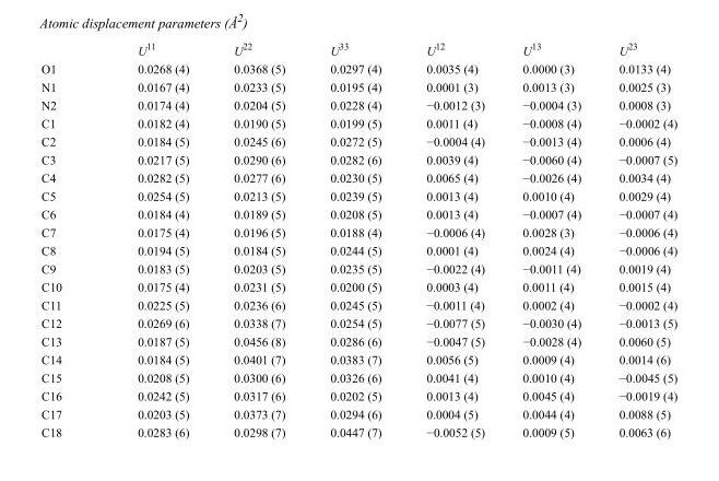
<table><thead><tr><td></td><td>U<sup>11</sup></td><td>U<sup>22</sup></td><td>U<sup>33</sup></td><td>U<sup>12</sup></td><td>U<sup>13</sup></td><td>U<sup>23</sup></td></tr></thead><tbody><tr><td>O1</td><td>0.0268 (4)</td><td>0.0368 (5)</td><td>0.0297 (4)</td><td>0.0035 (4)</td><td>0.0000 (3)</td><td>0.0133 (4)</td></tr><tr><td>N1</td><td>0.0167 (4)</td><td>0.0233 (5)</td><td>0.0195 (4)</td><td>0.0001 (3)</td><td>0.0013 (3)</td><td>0.0025 (3)</td></tr><tr><td>N2</td><td>0.0174 (4)</td><td>0.0204 (5)</td><td>0.0228 (4)</td><td>−0.0012 (3)</td><td>−0.0004 (3)</td><td>0.0008 (3)</td></tr><tr><td>C1</td><td>0.0182 (4)</td><td>0.0190 (5)</td><td>0.0199 (5)</td><td>0.0011 (4)</td><td>−0.0008 (4)</td><td>−0.0002 (4)</td></tr><tr><td>C2</td><td>0.0184 (5)</td><td>0.0245 (6)</td><td>0.0272 (5)</td><td>−0.0004 (4)</td><td>−0.0013 (4)</td><td>0.0006 (4)</td></tr><tr><td>C3</td><td>0.0217 (5)</td><td>0.0290 (6)</td><td>0.0282 (6)</td><td>0.0039 (4)</td><td>−0.0060 (4)</td><td>−0.0007 (5)</td></tr><tr><td>C4</td><td>0.0282 (5)</td><td>0.0277 (6)</td><td>0.0230 (5)</td><td>0.0065 (4)</td><td>−0.0026 (4)</td><td>0.0034 (4)</td></tr><tr><td>C5</td><td>0.0254 (5)</td><td>0.0213 (5)</td><td>0.0239 (5)</td><td>0.0013 (4)</td><td>0.0010 (4)</td><td>0.0029 (4)</td></tr><tr><td>C6</td><td>0.0184 (4)</td><td>0.0189 (5)</td><td>0.0208 (5)</td><td>0.0013 (4)</td><td>−0.0007 (4)</td><td>−0.0007 (4)</td></tr><tr><td>C7</td><td>0.0175 (4)</td><td>0.0196 (5)</td><td>0.0188 (4)</td><td>−0.0006 (4)</td><td>0.0028 (3)</td><td>−0.0006 (4)</td></tr><tr><td>C8</td><td>0.0194 (5)</td><td>0.0184 (5)</td><td>0.0244 (5)</td><td>0.0001 (4)</td><td>0.0024 (4)</td><td>−0.0006 (4)</td></tr><tr><td>C9</td><td>0.0183 (5)</td><td>0.0203 (5)</td><td>0.0235 (5)</td><td>−0.0022 (4)</td><td>−0.0011 (4)</td><td>0.0019 (4)</td></tr><tr><td>C10</td><td>0.0175 (4)</td><td>0.0231 (5)</td><td>0.0200 (5)</td><td>0.0003 (4)</td><td>0.0011 (4)</td><td>0.0015 (4)</td></tr><tr><td>C11</td><td>0.0225 (5)</td><td>0.0236 (6)</td><td>0.0245 (5)</td><td>−0.0011 (4)</td><td>0.0002 (4)</td><td>−0.0002 (4)</td></tr><tr><td>C12</td><td>0.0269 (6)</td><td>0.0338 (7)</td><td>0.0254 (5)</td><td>−0.0077 (5)</td><td>−0.0030 (4)</td><td>−0.0013 (5)</td></tr><tr><td>C13</td><td>0.0187 (5)</td><td>0.0456 (8)</td><td>0.0286 (6)</td><td>−0.0047 (5)</td><td>−0.0028 (4)</td><td>0.0060 (5)</td></tr><tr><td>C14</td><td>0.0184 (5)</td><td>0.0401 (7)</td><td>0.0383 (7)</td><td>0.0056 (5)</td><td>0.0009 (4)</td><td>0.0014 (6)</td></tr><tr><td>C15</td><td>0.0208 (5)</td><td>0.0300 (6)</td><td>0.0326 (6)</td><td>0.0041 (4)</td><td>0.0010 (4)</td><td>−0.0045 (5)</td></tr><tr><td>C16</td><td>0.0242 (5)</td><td>0.0317 (6)</td><td>0.0202 (5)</td><td>0.0013 (4)</td><td>0.0045 (4)</td><td>−0.0019 (4)</td></tr><tr><td>C17</td><td>0.0203 (5)</td><td>0.0373 (7)</td><td>0.0294 (6)</td><td>0.0004 (5)</td><td>0.0044 (4)</td><td>0.0088 (5)</td></tr><tr><td>C18</td><td>0.0283 (6)</td><td>0.0298 (7)</td><td>0.0447 (7)</td><td>−0.0052 (5)</td><td>0.0009 (5)</td><td>0.0063 (6)</td></tr></tbody></table>